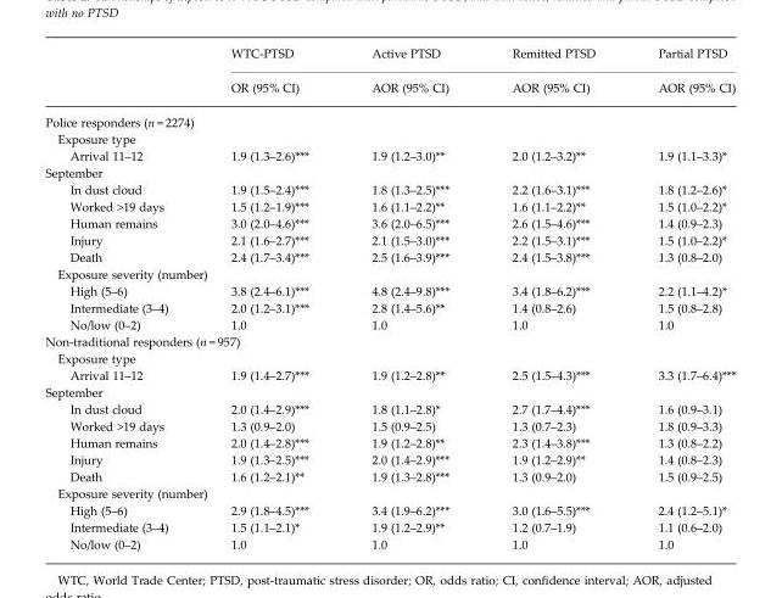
<table><thead><tr><td rowspan="2"></td><td rowspan="2">WTC-PTSD OR (95% CI)</td><td rowspan="2">Active PTSD AOR (95% CI)</td><td rowspan="2">Remitted PTSD AOR (95% CI)</td><td rowspan="2">Partial PTSD AOR (95% CI)</td></tr><tr></tr></thead><tbody><tr><td colspan="5">Police responders (n = 2274)</td></tr><tr><td colspan="5">Exposure type</td></tr><tr><td>Arrival 11–12</td><td>1.9 (1.3–2.6)***</td><td>1.9 (1.2–3.0)**</td><td>2.0 (1.2–3.2)**</td><td>1.9 (1.1–3.3)*</td></tr><tr><td colspan="5">September</td></tr><tr><td>In dust cloud</td><td>1.9 (1.5–2.4)***</td><td>1.8 (1.3–2.5)***</td><td>2.2 (1.6–3.1)***</td><td>1.8 (1.2–2.6)*</td></tr><tr><td>Worked &gt;19 days</td><td>1.5 (1.2–1.9)***</td><td>1.6 (1.1–2.2)**</td><td>1.6 (1.1–2.2)**</td><td>1.5 (1.0–2.2)*</td></tr><tr><td>Human remains</td><td>3.0 (2.0–4.6)***</td><td>3.6 (2.0–6.5)***</td><td>2.6 (1.5–4.6)***</td><td>1.4 (0.9–2.3)</td></tr><tr><td>Injury</td><td>2.1 (1.6–2.7)***</td><td>2.1 (1.5–3.0)***</td><td>2.2 (1.5–3.1)***</td><td>1.5 (1.0–2.2)*</td></tr><tr><td>Death</td><td>2.4 (1.7–3.4)***</td><td>2.5 (1.6–3.9)***</td><td>2.4 (1.5–3.8)***</td><td>1.3 (0.8–2.0)</td></tr><tr><td colspan="5">Exposure severity (number)</td></tr><tr><td>High (5–6)</td><td>3.8 (2.4–6.1)***</td><td>4.8 (2.4–9.8)***</td><td>3.4 (1.8–6.2)***</td><td>2.2 (1.1–4.2)*</td></tr><tr><td>Intermediate (3–4)</td><td>2.0 (1.2–3.1)***</td><td>2.8 (1.4–5.6)**</td><td>1.4 (0.8–2.6)</td><td>1.5 (0.8–2.8)</td></tr><tr><td>No/low (0–2)</td><td>1.0</td><td>1.0</td><td>1.0</td><td>1.0</td></tr><tr><td colspan="5">Non-traditional responders (n = 957)</td></tr><tr><td colspan="5">Exposure type</td></tr><tr><td>Arrival 11–12</td><td>1.9 (1.4–2.7)***</td><td>1.9 (1.2–2.8)**</td><td>2.5 (1.5–4.3)***</td><td>3.3 (1.7–6.4)***</td></tr><tr><td colspan="5">September</td></tr><tr><td>In dust cloud</td><td>2.0 (1.4–2.9)***</td><td>1.8 (1.1–2.8)*</td><td>2.7 (1.7–4.4)***</td><td>1.6 (0.9–3.1)</td></tr><tr><td>Worked &gt;19 days</td><td>1.3 (0.9–2.0)</td><td>1.5 (0.9–2.5)</td><td>1.3 (0.7–2.3)</td><td>1.8 (0.9–3.3)</td></tr><tr><td>Human remains</td><td>2.0 (1.4–2.8)***</td><td>1.9 (1.2–2.8)**</td><td>2.3 (1.4–3.8)***</td><td>1.3 (0.8–2.2)</td></tr><tr><td>Injury</td><td>1.9 (1.3–2.5)***</td><td>2.0 (1.4–2.9)***</td><td>1.9 (1.2–2.9)**</td><td>1.4 (0.8–2.3)</td></tr><tr><td>Death</td><td>1.6 (1.2–2.1)**</td><td>1.9 (1.3–2.8)***</td><td>1.3 (0.9–2.0)</td><td>1.5 (0.9–2.5)</td></tr><tr><td colspan="5">Exposure severity (number)</td></tr><tr><td>High (5–6)</td><td>2.9 (1.8–4.5)***</td><td>3.4 (1.9–6.2)***</td><td>3.0 (1.6–5.5)***</td><td>2.4 (1.2–5.1)*</td></tr><tr><td>Intermediate (3–4)</td><td>1.5 (1.1–2.1)*</td><td>1.9 (1.2–2.9)**</td><td>1.2 (0.7–1.9)</td><td>1.1 (0.6–2.0)</td></tr><tr><td>No/low (0–2)</td><td>1.0</td><td>1.0</td><td>1.0</td><td>1.0</td></tr></tbody></table>